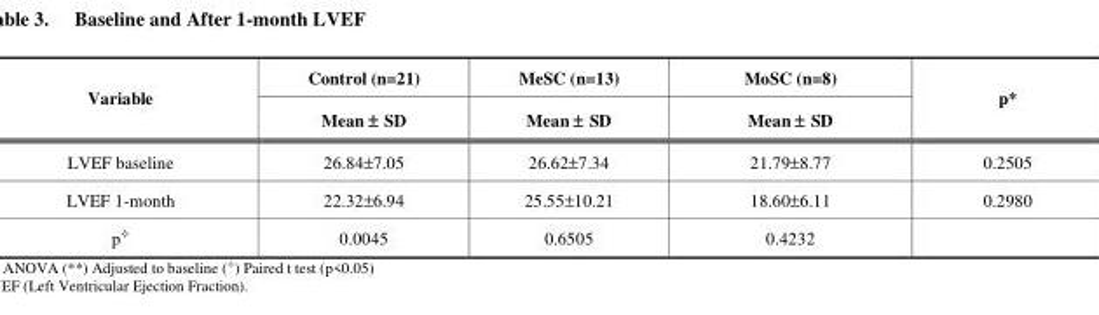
<table><thead><tr><td rowspan="2">Variable</td><td rowspan="2">Control (n=21) Mean ± SD</td><td rowspan="2">MeSC (n=13) Mean ± SD</td><td rowspan="2">MoSC (n=8) Mean ± SD</td><td rowspan="2">p*</td></tr><tr></tr></thead><tbody><tr><td>LVEF baseline</td><td>26.84±7.05</td><td>26.62±7.34</td><td>21.79±8.77</td><td>0.2505</td></tr><tr><td>LVEF 1-month</td><td>22.32±6.94</td><td>25.55±10.21</td><td>18.60±6.11</td><td>0.2980</td></tr><tr><td>p⟡</td><td>0.0045</td><td>0.6505</td><td>0.4232</td><td></td></tr></tbody></table>